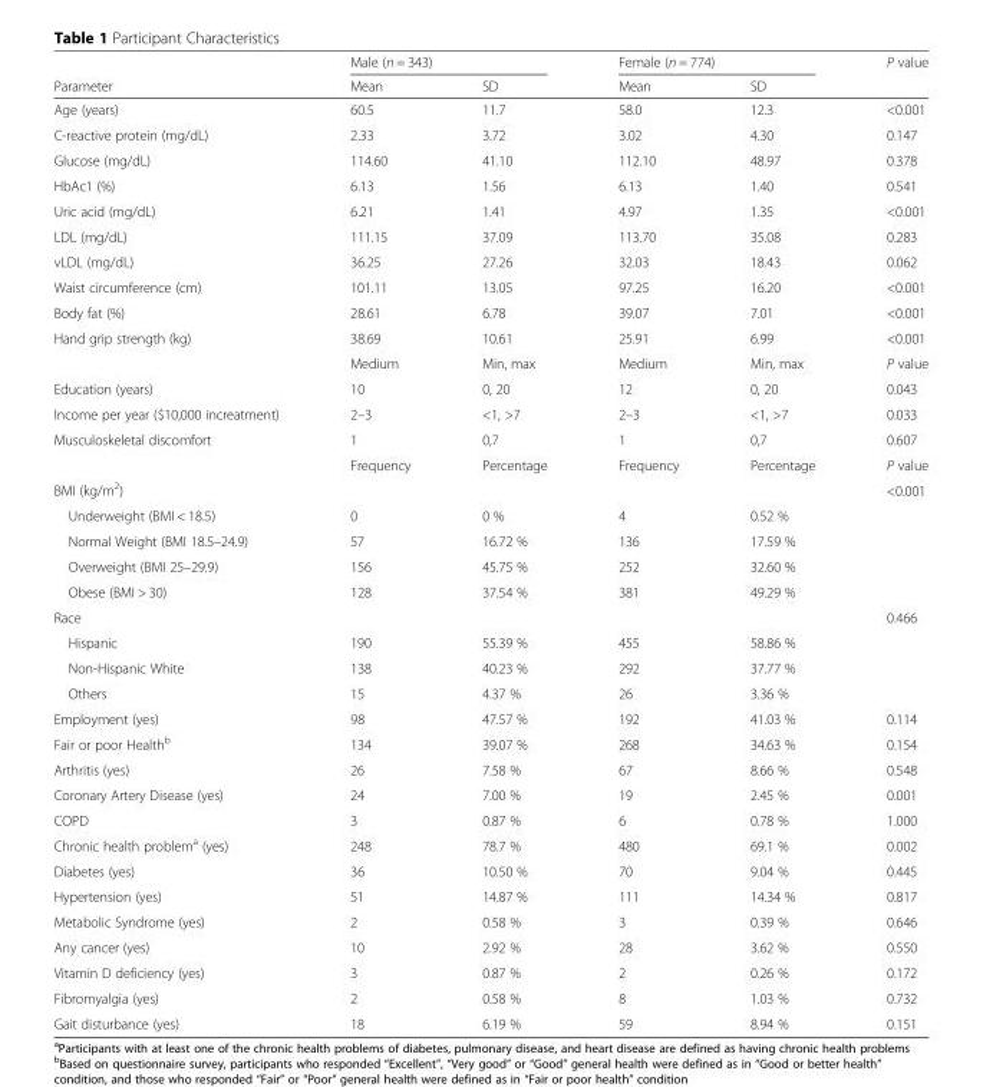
<table><thead><tr><td rowspan="2">Parameter</td><td colspan="2">Male (n = 343)</td><td colspan="2">Female (n = 774)</td><td rowspan="2">P value</td></tr><tr><td>Mean</td><td>SD</td><td>Mean</td><td>SD</td></tr></thead><tbody><tr><td>Age (years)</td><td>60.5</td><td>11.7</td><td>58.0</td><td>12.3</td><td>&lt;0.001</td></tr><tr><td>C-reactive protein (mg/dL)</td><td>2.33</td><td>3.72</td><td>3.02</td><td>4.30</td><td>0.147</td></tr><tr><td>Glucose (mg/dL)</td><td>114.60</td><td>41.10</td><td>112.10</td><td>48.97</td><td>0.378</td></tr><tr><td>HbAc1 (%)</td><td>6.13</td><td>1.56</td><td>6.13</td><td>1.40</td><td>0.541</td></tr><tr><td>Uric acid (mg/dL)</td><td>6.21</td><td>1.41</td><td>4.97</td><td>1.35</td><td>&lt;0.001</td></tr><tr><td>LDL (mg/dL)</td><td>111.15</td><td>37.09</td><td>113.70</td><td>35.08</td><td>0.283</td></tr><tr><td>vLDL (mg/dL)</td><td>36.25</td><td>27.26</td><td>32.03</td><td>18.43</td><td>0.062</td></tr><tr><td>Waist circumference (cm)</td><td>101.11</td><td>13.05</td><td>97.25</td><td>16.20</td><td>&lt;0.001</td></tr><tr><td>Body fat (%)</td><td>28.61</td><td>6.78</td><td>39.07</td><td>7.01</td><td>&lt;0.001</td></tr><tr><td rowspan="2">Hand grip strength (kg)</td><td>38.69</td><td>10.61</td><td>25.91</td><td>6.99</td><td>&lt;0.001</td></tr><tr><td>Medium</td><td>Min, max</td><td>Medium</td><td>Min, max</td><td>P value</td></tr><tr><td>Education (years)</td><td>10</td><td>0, 20</td><td>12</td><td>0, 20</td><td>0.043</td></tr><tr><td>Income per year ($10,000 increatment)</td><td>2–3</td><td>&lt;1, &gt;7</td><td>2–3</td><td>&lt;1, &gt;7</td><td>0.033</td></tr><tr><td rowspan="2">Musculoskeletal discomfort</td><td>1</td><td>0,7</td><td>1</td><td>0,7</td><td>0.607</td></tr><tr><td>Frequency</td><td>Percentage</td><td>Frequency</td><td>Percentage</td><td>P value</td></tr><tr><td>BMI (kg/m<sup>2</sup>)</td><td></td><td></td><td></td><td></td><td>&lt;0.001</td></tr><tr><td>Underweight (BMI &lt; 18.5)</td><td>0</td><td>0 %</td><td>4</td><td>0.52 %</td><td></td></tr><tr><td>Normal Weight (BMI 18.5–24.9)</td><td>57</td><td>16.72 %</td><td>136</td><td>17.59 %</td><td></td></tr><tr><td>Overweight (BMI 25–29.9)</td><td>156</td><td>45.75 %</td><td>252</td><td>32.60 %</td><td></td></tr><tr><td>Obese (BMI &gt; 30)</td><td>128</td><td>37.54 %</td><td>381</td><td>49.29 %</td><td></td></tr><tr><td>Race</td><td></td><td></td><td></td><td></td><td>0.466</td></tr><tr><td>Hispanic</td><td>190</td><td>55.39 %</td><td>455</td><td>58.86 %</td><td></td></tr><tr><td>Non-Hispanic White</td><td>138</td><td>40.23 %</td><td>292</td><td>37.77 %</td><td></td></tr><tr><td>Others</td><td>15</td><td>4.37 %</td><td>26</td><td>3.36 %</td><td></td></tr><tr><td>Employment (yes)</td><td>98</td><td>47.57 %</td><td>192</td><td>41.03 %</td><td>0.114</td></tr><tr><td>Fair or poor Health<sup>b</sup></td><td>134</td><td>39.07 %</td><td>268</td><td>34.63 %</td><td>0.154</td></tr><tr><td>Arthritis (yes)</td><td>26</td><td>7.58 %</td><td>67</td><td>8.66 %</td><td>0.548</td></tr><tr><td>Coronary Artery Disease (yes)</td><td>24</td><td>7.00 %</td><td>19</td><td>2.45 %</td><td>0.001</td></tr><tr><td>COPD</td><td>3</td><td>0.87 %</td><td>6</td><td>0.78 %</td><td>1.000</td></tr><tr><td>Chronic health problem<sup>a</sup> (yes)</td><td>248</td><td>78.7 %</td><td>480</td><td>69.1 %</td><td>0.002</td></tr><tr><td>Diabetes (yes)</td><td>36</td><td>10.50 %</td><td>70</td><td>9.04 %</td><td>0.445</td></tr><tr><td>Hypertension (yes)</td><td>51</td><td>14.87 %</td><td>111</td><td>14.34 %</td><td>0.817</td></tr><tr><td>Metabolic Syndrome (yes)</td><td>2</td><td>0.58 %</td><td>3</td><td>0.39 %</td><td>0.646</td></tr><tr><td>Any cancer (yes)</td><td>10</td><td>2.92 %</td><td>28</td><td>3.62 %</td><td>0.550</td></tr><tr><td>Vitamin D deficiency (yes)</td><td>3</td><td>0.87 %</td><td>2</td><td>0.26 %</td><td>0.172</td></tr><tr><td>Fibromyalgia (yes)</td><td>2</td><td>0.58 %</td><td>8</td><td>1.03 %</td><td>0.732</td></tr><tr><td>Gait disturbance (yes)</td><td>18</td><td>6.19 %</td><td>59</td><td>8.94 %</td><td>0.151</td></tr></tbody></table>